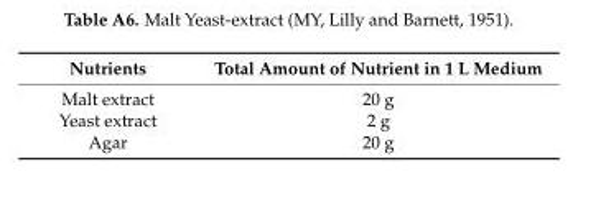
<table><thead><tr><td>Nutrients</td><td>Total Amount of Nutrient in 1 L Medium</td></tr></thead><tbody><tr><td>Malt extract</td><td>20 g</td></tr><tr><td>Yeast extract</td><td>2 g</td></tr><tr><td>Agar</td><td>20 g</td></tr></tbody></table>